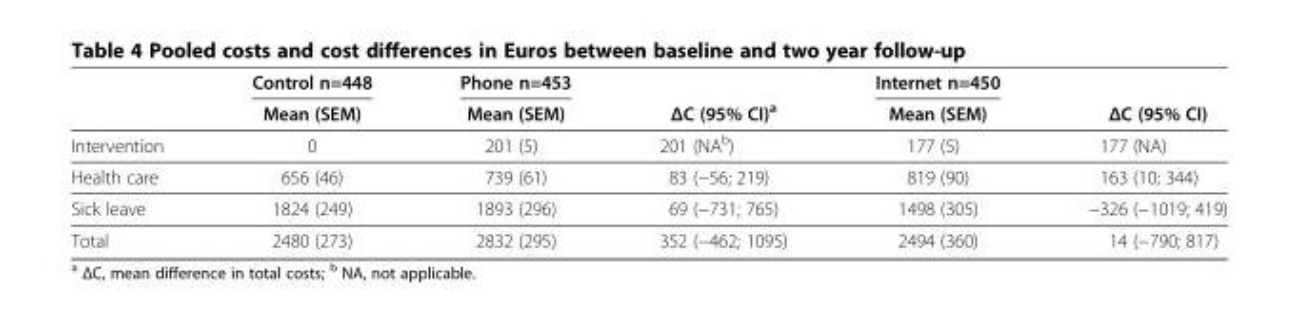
<table><thead><tr><td rowspan="2"></td><td rowspan="2">Control n=448 Mean (SEM)</td><td rowspan="2">Phone n=453 Mean (SEM)</td><td rowspan="2">ΔC (95% CI)<sup>a</sup></td><td rowspan="2">Internet n=450 Mean (SEM)</td><td rowspan="2">ΔC (95% CI)</td></tr><tr></tr></thead><tbody><tr><td>Intervention</td><td>0</td><td>201 (5)</td><td>201 (NA<sup>b</sup>)</td><td>177 (5)</td><td>177 (NA)</td></tr><tr><td>Health care</td><td>656 (46)</td><td>739 (61)</td><td>83 (−56; 219)</td><td>819 (90)</td><td>163 (10; 344)</td></tr><tr><td>Sick leave</td><td>1824 (249)</td><td>1893 (296)</td><td>69 (−731; 765)</td><td>1498 (305)</td><td>−326 (−1019; 419)</td></tr><tr><td>Total</td><td>2480 (273)</td><td>2832 (295)</td><td>352 (−462; 1095)</td><td>2494 (360)</td><td>14 (−790; 817)</td></tr></tbody></table>